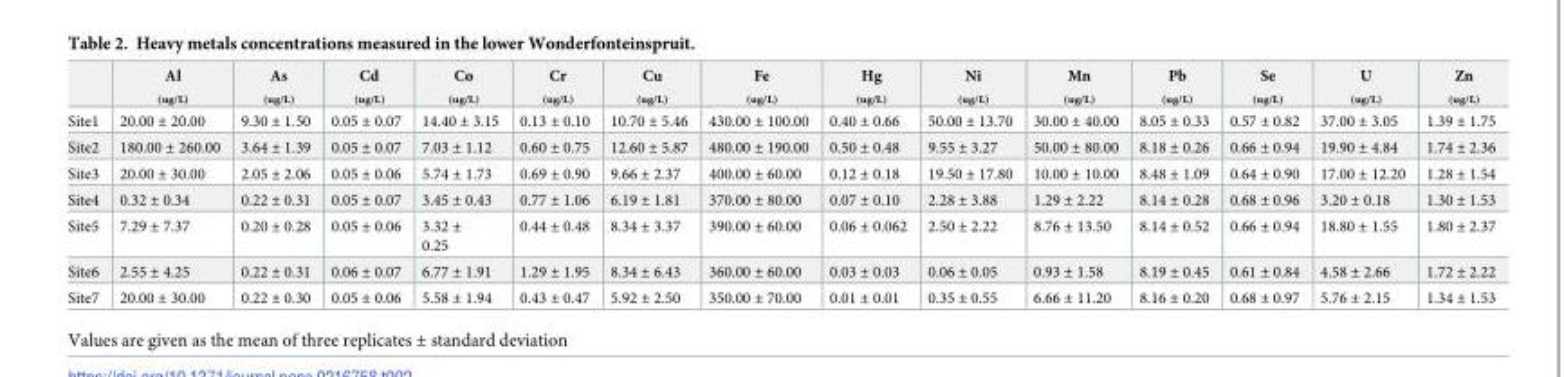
<table><thead><tr><td></td><td>Al <sub>(ug/L)</sub></td><td>As <sub>(ug/L)</sub></td><td>Cd <sub>(ug/L)</sub></td><td>Co <sub>(ug/L)</sub></td><td>Cr <sub>(ug/L)</sub></td><td>Cu <sub>(ug/L)</sub></td><td>Fe <sub>(ug/L)</sub></td><td>Hg <sub>(ug/L)</sub></td><td>Ni <sub>(ug/L)</sub></td><td>Mn <sub>(ug/L)</sub></td><td>Pb <sub>(ug/L)</sub></td><td>Se <sub>(ug/L)</sub></td><td>U <sub>(ug/L)</sub></td><td>Zn <sub>(ug/L)</sub></td></tr></thead><tbody><tr><td>Site1</td><td>20.00 ± 20.00</td><td>9.30 ± 1.50</td><td>0.05 ± 0.07</td><td>14.40 ± 3.15</td><td>0.13 ± 0.10</td><td>10.70 ± 5.46</td><td>430.00 ± 100.00</td><td>0.40 ± 0.66</td><td>50.00 ± 13.70</td><td>30.00 ± 40.00</td><td>8.05 ± 0.33</td><td>0.57 ± 0.82</td><td>37.00 ± 3.05</td><td>1.39 ± 1.75</td></tr><tr><td>Site2</td><td>180.00 ± 260.00</td><td>3.64 ± 1.39</td><td>0.05 ± 0.07</td><td>7.03 ± 1.12</td><td>0.60 ± 0.75</td><td>12.60 ± 5.87</td><td>480.00 ± 190.00</td><td>0.50 ± 0.48</td><td>9.55 ± 3.27</td><td>50.00 ± 80.00</td><td>8.18 ± 0.26</td><td>0.66 ± 0.94</td><td>19.90 ± 4.84</td><td>1.74 ± 2.36</td></tr><tr><td>Site3</td><td>20.00 ± 30.00</td><td>2.05 ± 2.06</td><td>0.05 ± 0.06</td><td>5.74 ± 1.73</td><td>0.69 ± 0.90</td><td>9.66 ± 2.37</td><td>400.00 ± 60.00</td><td>0.12 ± 0.18</td><td>19.50 ± 17.80</td><td>10.00 ± 10.00</td><td>8.48 ± 1.09</td><td>0.64 ± 0.90</td><td>17.00 ± 12.20</td><td>1.28 ± 1.54</td></tr><tr><td>Site4</td><td>0.32 ± 0.34</td><td>0.22 ± 0.31</td><td>0.05 ± 0.07</td><td>3.45 ± 0.43</td><td>0.77 ± 1.06</td><td>6.19 ± 1.81</td><td>370.00 ± 80.00</td><td>0.07 ± 0.10</td><td>2.28 ± 3.88</td><td>1.29 ± 2.22</td><td>8.14 ± 0.28</td><td>0.68 ± 0.96</td><td>3.20 ± 0.18</td><td>1.30 ± 1.53</td></tr><tr><td>Site5</td><td>7.29 ± 7.37</td><td>0.20 ± 0.28</td><td>0.05 ± 0.06</td><td>3.32 ± 0.25</td><td>0.44 ± 0.48</td><td>8.34 ± 3.37</td><td>390.00 ± 60.00</td><td>0.06 ± 0.062</td><td>2.50 ± 2.22</td><td>8.76 ± 13.50</td><td>8.14 ± 0.52</td><td>0.66 ± 0.94</td><td>18.80 ± 1.55</td><td>1.80 ± 2.37</td></tr><tr><td>Site6</td><td>2.55 ± 4.25</td><td>0.22 ± 0.31</td><td>0.06 ± 0.07</td><td>6.77 ± 1.91</td><td>1.29 ± 1.95</td><td>8.34 ± 6.43</td><td>360.00 ± 60.00</td><td>0.03 ± 0.03</td><td>0.06 ± 0.05</td><td>0.93 ± 1.58</td><td>8.19 ± 0.45</td><td>0.61 ± 0.84</td><td>4.58 ± 2.66</td><td>1.72 ± 2.22</td></tr><tr><td>Site7</td><td>20.00 ± 30.00</td><td>0.22 ± 0.30</td><td>0.05 ± 0.06</td><td>5.58 ± 1.94</td><td>0.43 ± 0.47</td><td>5.92 ± 2.50</td><td>350.00 ± 70.00</td><td>0.01 ± 0.01</td><td>0.35 ± 0.55</td><td>6.66 ± 11.20</td><td>8.16 ± 0.20</td><td>0.68 ± 0.97</td><td>5.76 ± 2.15</td><td>1.34 ± 1.53</td></tr></tbody></table>